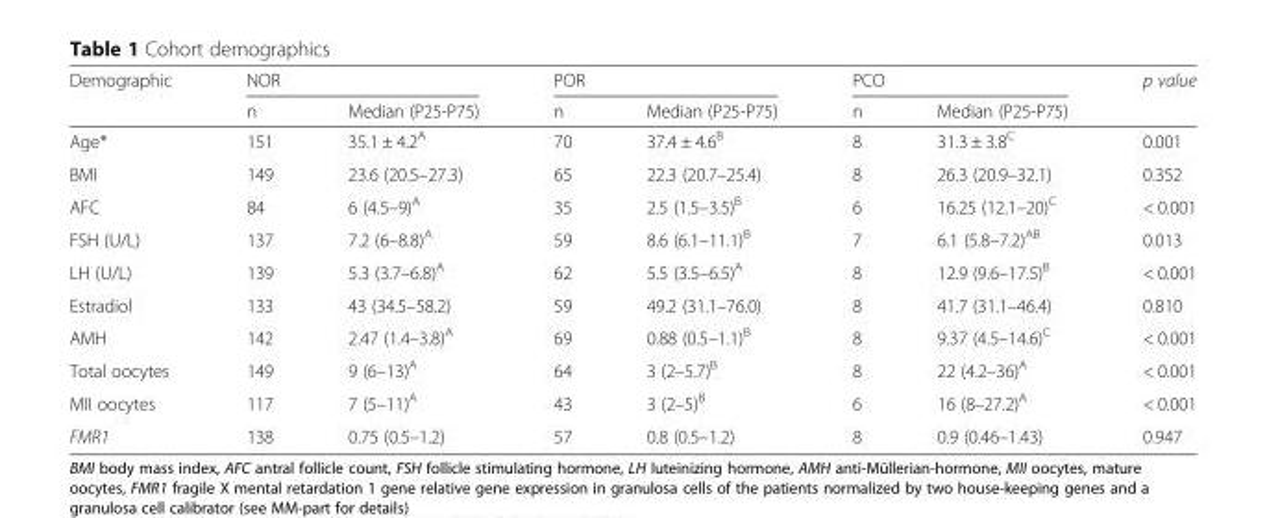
<table><thead><tr><td rowspan="2">Demographic</td><td colspan="2">NOR</td><td colspan="2">POR</td><td colspan="2">PCO</td><td rowspan="2">p value</td></tr><tr><td>n</td><td>Median (P25-P75)</td><td>n</td><td>Median (P25-P75)</td><td>n</td><td>Median (P25-P75)</td></tr></thead><tbody><tr><td>Age*</td><td>151</td><td>35.1 ± 4.2<sup>A</sup></td><td>70</td><td>37.4 ± 4.6<sup>B</sup></td><td>8</td><td>31.3 ± 3.8<sup>C</sup></td><td>0.001</td></tr><tr><td>BMI</td><td>149</td><td>23.6 (20.5–27.3)</td><td>65</td><td>22.3 (20.7–25.4)</td><td>8</td><td>26.3 (20.9–32.1)</td><td>0.352</td></tr><tr><td>AFC</td><td>84</td><td>6 (4.5–9)<sup>A</sup></td><td>35</td><td>2.5 (1.5–3.5)<sup>B</sup></td><td>6</td><td>16.25 (12.1–20)<sup>C</sup></td><td>&lt; 0.001</td></tr><tr><td>FSH (U/L)</td><td>137</td><td>7.2 (6–8.8)<sup>A</sup></td><td>59</td><td>8.6 (6.1–11.1)<sup>B</sup></td><td>7</td><td>6.1 (5.8–7.2)<sup>AB</sup></td><td>0.013</td></tr><tr><td>LH (U/L)</td><td>139</td><td>5.3 (3.7–6.8)<sup>A</sup></td><td>62</td><td>5.5 (3.5–6.5)<sup>A</sup></td><td>8</td><td>12.9 (9.6–17.5)<sup>B</sup></td><td>&lt; 0.001</td></tr><tr><td>Estradiol</td><td>133</td><td>43 (34.5–58.2)</td><td>59</td><td>49.2 (31.1–76.0)</td><td>8</td><td>41.7 (31.1–46.4)</td><td>0.810</td></tr><tr><td>AMH</td><td>142</td><td>2.47 (1.4–3.8)<sup>A</sup></td><td>69</td><td>0.88 (0.5–1.1)<sup>B</sup></td><td>8</td><td>9.37 (4.5–14.6)<sup>C</sup></td><td>&lt; 0.001</td></tr><tr><td>Total oocytes</td><td>149</td><td>9 (6–13)<sup>A</sup></td><td>64</td><td>3 (2–5.7)<sup>B</sup></td><td>8</td><td>22 (4.2–36)<sup>A</sup></td><td>&lt; 0.001</td></tr><tr><td>MII oocytes</td><td>117</td><td>7 (5–11)<sup>A</sup></td><td>43</td><td>3 (2–5)<sup>B</sup></td><td>6</td><td>16 (8–27.2)<sup>A</sup></td><td>&lt; 0.001</td></tr><tr><td>FMR1</td><td>138</td><td>0.75 (0.5–1.2)</td><td>57</td><td>0.8 (0.5–1.2)</td><td>8</td><td>0.9 (0.46–1.43)</td><td>0.947</td></tr></tbody></table>